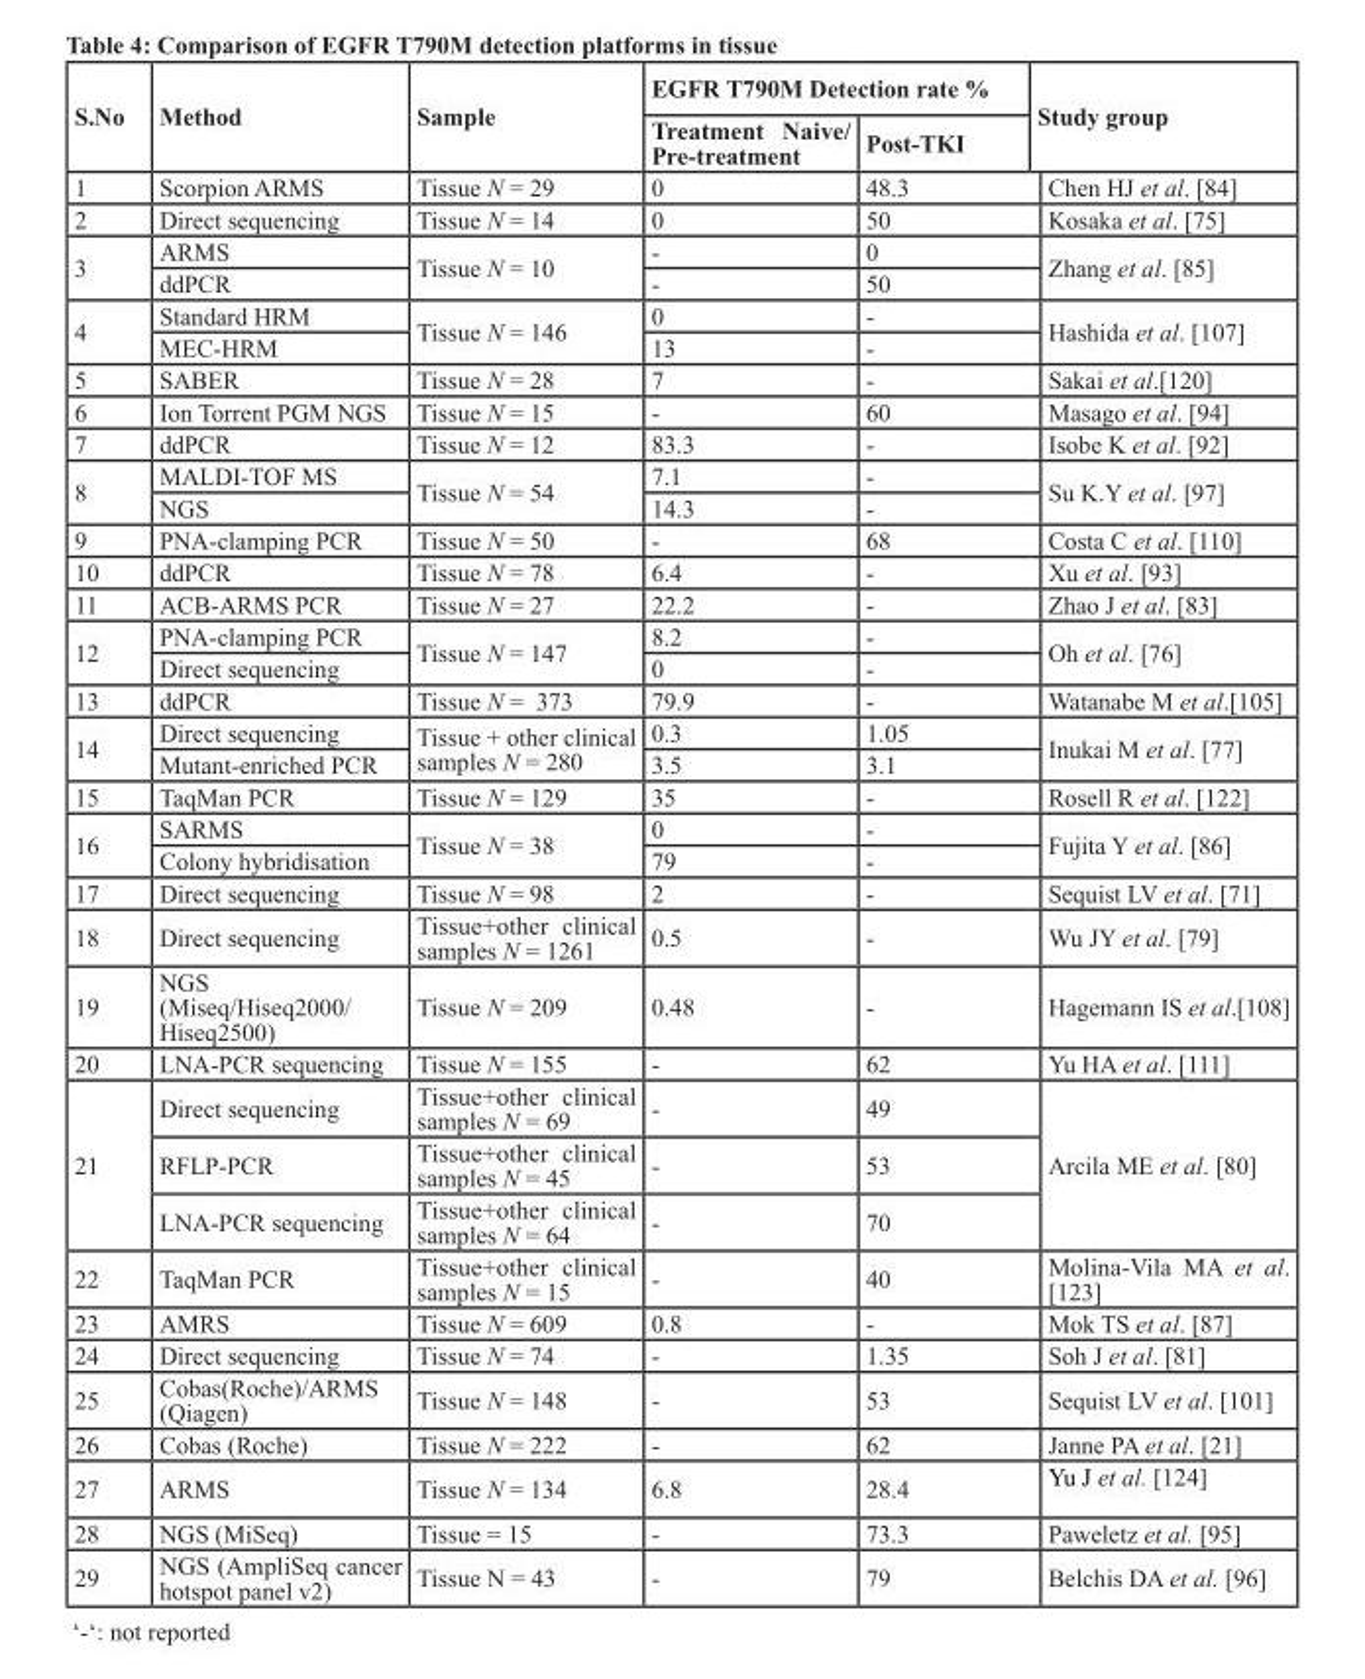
<table><thead><tr><td rowspan="2">S.No</td><td rowspan="2">Method</td><td rowspan="2">Sample</td><td colspan="2">EGFR T790M Detection rate %</td><td rowspan="2">Study group</td></tr><tr><td>Treatment Naive/ Pre-treatment</td><td>Post-TKI</td></tr></thead><tbody><tr><td>1</td><td>Scorpion ARMS</td><td>Tissue N = 29</td><td>0</td><td>48.3</td><td>Chen HJ et al. [84]</td></tr><tr><td>2</td><td>Direct sequencing</td><td>Tissue N = 14</td><td>0</td><td>50</td><td>Kosaka et al. [75]</td></tr><tr><td rowspan="2">3</td><td>ARMS</td><td rowspan="2">Tissue N = 10</td><td>-</td><td>0</td><td rowspan="2">Zhang et al. [85]</td></tr><tr><td>ddPCR</td><td>-</td><td>50</td></tr><tr><td rowspan="2">4</td><td>Standard HRM</td><td rowspan="2">Tissue N = 146</td><td>0</td><td>-</td><td rowspan="2">Hashida et al. [107]</td></tr><tr><td>MEC-HRM</td><td>13</td><td>-</td></tr><tr><td>5</td><td>SABER</td><td>Tissue N = 28</td><td>7</td><td>-</td><td>Sakai et al.[120]</td></tr><tr><td>6</td><td>Ion Torrent PGM NGS</td><td>Tissue N = 15</td><td>-</td><td>60</td><td>Masago et al. [94]</td></tr><tr><td>7</td><td>ddPCR</td><td>Tissue N = 12</td><td>83.3</td><td>-</td><td>Isobe K et al. [92]</td></tr><tr><td rowspan="2">8</td><td>MALDI-TOF MS</td><td rowspan="2">Tissue N = 54</td><td>7.1</td><td>-</td><td rowspan="2">Su K.Y et al. [97]</td></tr><tr><td>NGS</td><td>14.3</td><td>-</td></tr><tr><td>9</td><td>PNA-clamping PCR</td><td>Tissue N = 50</td><td>-</td><td>68</td><td>Costa C et al. [110]</td></tr><tr><td>10</td><td>ddPCR</td><td>Tissue N = 78</td><td>6.4</td><td>-</td><td>Xu et al. [93]</td></tr><tr><td>11</td><td>ACB-ARMS PCR</td><td>Tissue N = 27</td><td>22.2</td><td>-</td><td>Zhao J et al. [83]</td></tr><tr><td rowspan="2">12</td><td>PNA-clamping PCR</td><td rowspan="2">Tissue N = 147</td><td>8.2</td><td>-</td><td rowspan="2">Oh et al. [76]</td></tr><tr><td>Direct sequencing</td><td>0</td><td>-</td></tr><tr><td>13</td><td>ddPCR</td><td>Tissue N = 373</td><td>79.9</td><td>-</td><td>Watanabe M et al.[105]</td></tr><tr><td rowspan="2">14</td><td>Direct sequencing</td><td rowspan="2">Tissue + other clinical samples N = 280</td><td>0.3</td><td>1.05</td><td rowspan="2">Inukai M et al. [77]</td></tr><tr><td>Mutant-enriched PCR</td><td>3.5</td><td>3.1</td></tr><tr><td>15</td><td>TaqMan PCR</td><td>Tissue N = 129</td><td>35</td><td>-</td><td>Rosell R et al. [122]</td></tr><tr><td rowspan="2">16</td><td>SARMS</td><td rowspan="2">Tissue N = 38</td><td>0</td><td>-</td><td rowspan="2">Fujita Y et al. [86]</td></tr><tr><td>Colony hybridisation</td><td>79</td><td>-</td></tr><tr><td>17</td><td>Direct sequencing</td><td>Tissue N = 98</td><td>2</td><td>-</td><td>Sequist LV et al. [71]</td></tr><tr><td>18</td><td>Direct sequencing</td><td>Tissue+other clinical samples N = 1261</td><td>0.5</td><td>-</td><td>Wu JY et al. [79]</td></tr><tr><td>19</td><td>NGS (Miseq/Hiseq2000/ Hiseq2500)</td><td>Tissue N = 209</td><td>0.48</td><td>-</td><td>Hagemann IS et al.[108]</td></tr><tr><td>20</td><td>LNA-PCR sequencing</td><td>Tissue N = 155</td><td>-</td><td>62</td><td>Yu HA et al. [111]</td></tr><tr><td rowspan="3">21</td><td>Direct sequencing</td><td>Tissue+other clinical samples N = 69</td><td>-</td><td>49</td><td rowspan="3">Arcila ME et al. [80]</td></tr><tr><td>RFLP-PCR</td><td>Tissue+other clinical samples N = 45</td><td>-</td><td>53</td></tr><tr><td>LNA-PCR sequencing</td><td>Tissue+other clinical samples N = 64</td><td>-</td><td>70</td></tr><tr><td>22</td><td>TaqMan PCR</td><td>Tissue+other clinical samples N = 15</td><td>-</td><td>40</td><td>Molina-Vila MA et al. [123]</td></tr><tr><td>23</td><td>AMRS</td><td>Tissue N = 609</td><td>0.8</td><td>-</td><td>Mok TS et al. [87]</td></tr><tr><td>24</td><td>Direct sequencing</td><td>Tissue N = 74</td><td>-</td><td>1.35</td><td>Soh J et al. [81]</td></tr><tr><td>25</td><td>Cobas(Roche)/ARMS (Qiagen)</td><td>Tissue N = 148</td><td>-</td><td>53</td><td>Sequist LV et al. [101]</td></tr><tr><td>26</td><td>Cobas (Roche)</td><td>Tissue N = 222</td><td>-</td><td>62</td><td>Janne PA et al. [21]</td></tr><tr><td>27</td><td>ARMS</td><td>Tissue N = 134</td><td>6.8</td><td>28.4</td><td>Yu J et al. [124]</td></tr><tr><td>28</td><td>NGS (MiSeq)</td><td>Tissue = 15</td><td>-</td><td>73.3</td><td>Paweletz et al. [95]</td></tr><tr><td>29</td><td>NGS (AmpliSeq cancer hotspot panel v2)</td><td>Tissue N = 43</td><td>-</td><td>79</td><td>Belchis DA et al. [96]</td></tr></tbody></table>